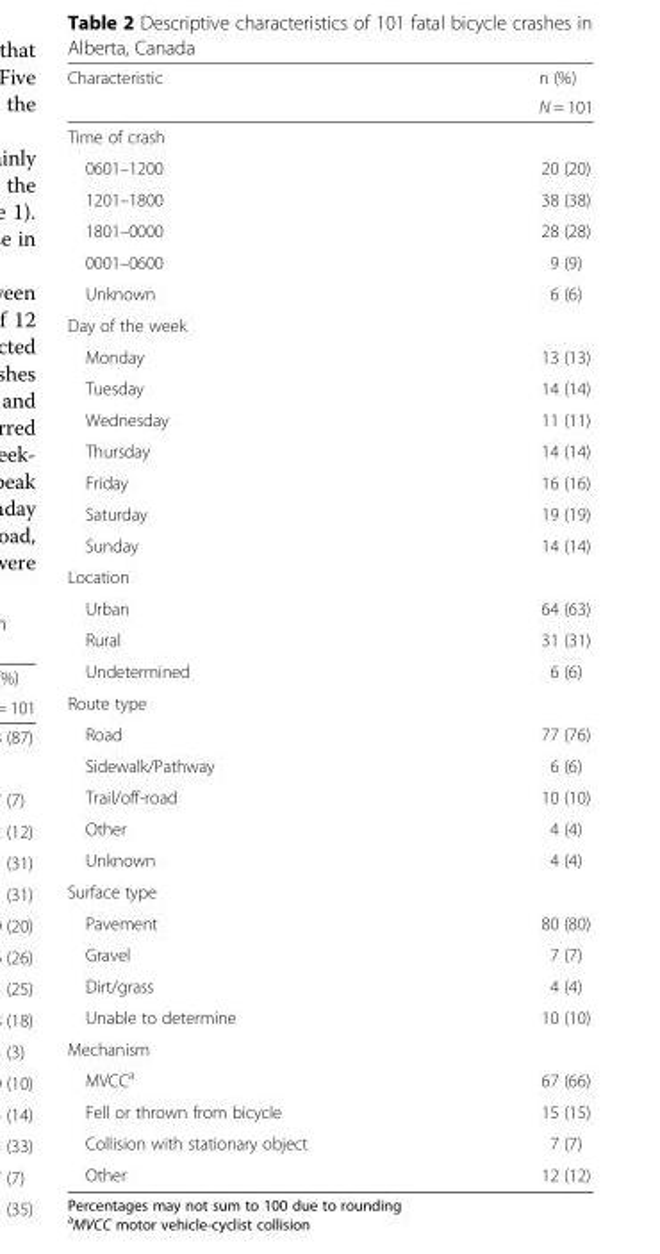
<table><thead><tr><td rowspan="2">Characteristic</td><td rowspan="2">n (%) N = 101</td></tr><tr></tr></thead><tbody><tr><td colspan="2">Time of crash</td></tr><tr><td>0601–1200</td><td>20 (20)</td></tr><tr><td>1201–1800</td><td>38 (38)</td></tr><tr><td>1801–0000</td><td>28 (28)</td></tr><tr><td>0001–0600</td><td>9 (9)</td></tr><tr><td>Unknown</td><td>6 (6)</td></tr><tr><td colspan="2">Day of the week</td></tr><tr><td>Monday</td><td>13 (13)</td></tr><tr><td>Tuesday</td><td>14 (14)</td></tr><tr><td>Wednesday</td><td>11 (11)</td></tr><tr><td>Thursday</td><td>14 (14)</td></tr><tr><td>Friday</td><td>16 (16)</td></tr><tr><td>Saturday</td><td>19 (19)</td></tr><tr><td>Sunday</td><td>14 (14)</td></tr><tr><td colspan="2">Location</td></tr><tr><td>Urban</td><td>64 (63)</td></tr><tr><td>Rural</td><td>31 (31)</td></tr><tr><td>Undetermined</td><td>6 (6)</td></tr><tr><td colspan="2">Route type</td></tr><tr><td>Road</td><td>77 (76)</td></tr><tr><td>Sidewalk/Pathway</td><td>6 (6)</td></tr><tr><td>Trail/off-road</td><td>10 (10)</td></tr><tr><td>Other</td><td>4 (4)</td></tr><tr><td>Unknown</td><td>4 (4)</td></tr><tr><td colspan="2">Surface type</td></tr><tr><td>Pavement</td><td>80 (80)</td></tr><tr><td>Gravel</td><td>7 (7)</td></tr><tr><td>Dirt/grass</td><td>4 (4)</td></tr><tr><td>Unable to determine</td><td>10 (10)</td></tr><tr><td colspan="2">Mechanism</td></tr><tr><td>MVCC<sup>a</sup></td><td>67 (66)</td></tr><tr><td>Fell or thrown from bicycle</td><td>15 (15)</td></tr><tr><td>Collision with stationary object</td><td>7 (7)</td></tr><tr><td>Other</td><td>12 (12)</td></tr></tbody></table>